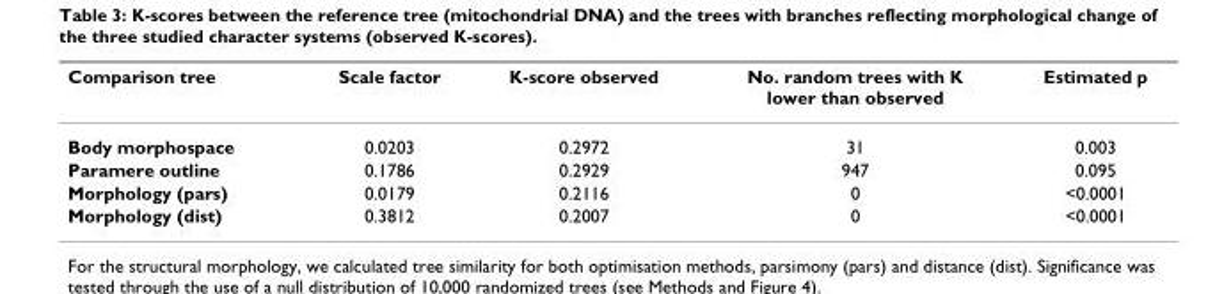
<table><thead><tr><td>Comparison tree</td><td>Scale factor</td><td>K-score observed</td><td>No. random trees with K lower than observed</td><td>Estimated p</td></tr></thead><tbody><tr><td>Body morphospace</td><td>0.0203</td><td>0.2972</td><td>31</td><td>0.003</td></tr><tr><td>Paramere outline</td><td>0.1786</td><td>0.2929</td><td>947</td><td>0.095</td></tr><tr><td>Morphology (pars)</td><td>0.0179</td><td>0.2116</td><td>0</td><td>&lt;0.0001</td></tr><tr><td>Morphology (dist)</td><td>0.3812</td><td>0.2007</td><td>0</td><td>&lt;0.0001</td></tr></tbody></table>